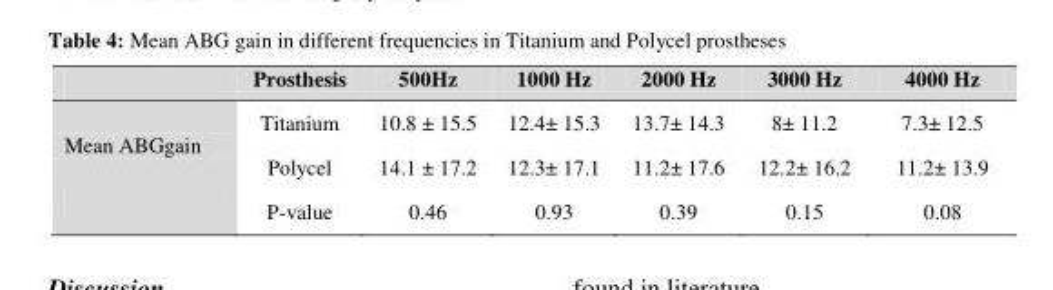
<table><thead><tr><td></td><td>Prosthesis</td><td>500Hz</td><td>1000 Hz</td><td>2000 Hz</td><td>3000 Hz</td><td>4000 Hz</td></tr></thead><tbody><tr><td rowspan="3">Mean ABGgain</td><td>Titanium</td><td>10.8 ± 15.5</td><td>12.4± 15.3</td><td>13.7± 14.3</td><td>8± 11.2</td><td>7.3± 12.5</td></tr><tr><td>Polycel</td><td>14.1 ± 17.2</td><td>12.3± 17.1</td><td>11.2± 17.6</td><td>12.2± 16.2</td><td>11.2± 13.9</td></tr><tr><td>P-value</td><td>0.46</td><td>0.93</td><td>0.39</td><td>0.15</td><td>0.08</td></tr></tbody></table>